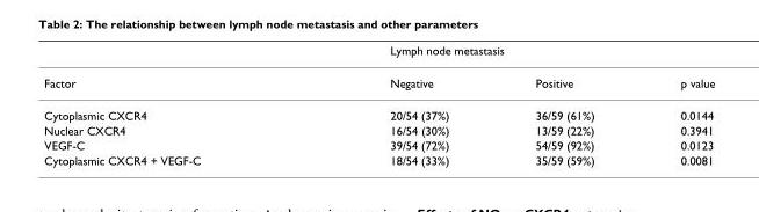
<table><thead><tr><td rowspan="2">Factor</td><td colspan="3">Lymph node metastasis</td></tr><tr><td>Negative</td><td>Positive</td><td>p value</td></tr></thead><tbody><tr><td>Cytoplasmic CXCR4</td><td>20/54 (37%)</td><td>36/59 (61%)</td><td>0.0144</td></tr><tr><td>Nuclear CXCR4</td><td>16/54 (30%)</td><td>13/59 (22%)</td><td>0.3941</td></tr><tr><td>VEGF-C</td><td>39/54 (72%)</td><td>54/59 (92%)</td><td>0.0123</td></tr><tr><td>Cytoplasmic CXCR4 + VEGF-C</td><td>18/54 (33%)</td><td>35/59 (59%)</td><td>0.0081</td></tr></tbody></table>